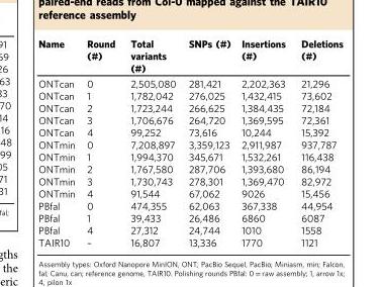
<table><thead><tr><td>Name</td><td>Round (#)</td><td>Total variants (#)</td><td>SNPs (#)</td><td>Insertions (#)</td><td>Deletions (#)</td></tr></thead><tbody><tr><td>ONTcan</td><td>0</td><td>2,505,080</td><td>281,421</td><td>2,202,363</td><td>21,296</td></tr><tr><td>ONTcan</td><td>1</td><td>1,782,042</td><td>276,025</td><td>1,432,415</td><td>73,602</td></tr><tr><td>ONTcan</td><td>2</td><td>1,723,244</td><td>266,625</td><td>1,384,435</td><td>72,184</td></tr><tr><td>ONTcan</td><td>3</td><td>1,706,676</td><td>264,720</td><td>1,369,595</td><td>72,361</td></tr><tr><td>ONTcan</td><td>4</td><td>99,252</td><td>73,616</td><td>10,244</td><td>15,392</td></tr><tr><td>ONTmin</td><td>0</td><td>7,208,897</td><td>3,359,123</td><td>2,911,987</td><td>937,787</td></tr><tr><td>ONTmin</td><td>1</td><td>1,994,370</td><td>345,671</td><td>1,532,261</td><td>116,438</td></tr><tr><td>ONTmin</td><td>2</td><td>1,767,580</td><td>287,706</td><td>1,393,680</td><td>86,194</td></tr><tr><td>ONTmin</td><td>3</td><td>1,730,743</td><td>278,301</td><td>1,369,470</td><td>82,972</td></tr><tr><td>ONTmin</td><td>4</td><td>91,544</td><td>67,062</td><td>9026</td><td>15,456</td></tr><tr><td>PBfal</td><td>0</td><td>474,355</td><td>62,063</td><td>367,338</td><td>44,954</td></tr><tr><td>PBfal</td><td>1</td><td>39,433</td><td>26,486</td><td>6860</td><td>6087</td></tr><tr><td>PBfal</td><td>4</td><td>27,312</td><td>24,744</td><td>1010</td><td>1558</td></tr><tr><td>TAIR10</td><td>–</td><td>16,807</td><td>13,336</td><td>1770</td><td>1121</td></tr></tbody></table>